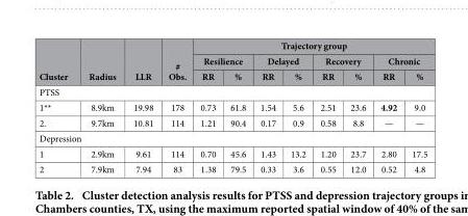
<table><thead><tr><td rowspan="3">Cluster</td><td rowspan="3">Radius</td><td rowspan="3">LLR</td><td rowspan="3"># Obs.</td><td colspan="8">Trajectory group</td></tr><tr><td colspan="2">Resilience</td><td colspan="2">Delayed</td><td colspan="2">Recovery</td><td colspan="2">Chronic</td></tr><tr><td>RR</td><td>%</td><td>RR</td><td>%</td><td>RR</td><td>%</td><td>RR</td><td>%</td></tr></thead><tbody><tr><td colspan="12">PTSS</td></tr><tr><td>1**</td><td>8.9km</td><td>19.98</td><td>178</td><td>0.73</td><td>61.8</td><td>1.54</td><td>5.6</td><td>2.51</td><td>23.6</td><td>4.92</td><td>9.0</td></tr><tr><td>2.</td><td>9.7km</td><td>10.81</td><td>114</td><td>1.21</td><td>90.4</td><td>0.17</td><td>0.9</td><td>0.58</td><td>8.8</td><td>—</td><td>—</td></tr><tr><td colspan="12">Depression</td></tr><tr><td>1</td><td>2.9km</td><td>9.61</td><td>114</td><td>0.70</td><td>45.6</td><td>1.43</td><td>13.2</td><td>1.20</td><td>23.7</td><td>2.80</td><td>17.5</td></tr><tr><td>2</td><td>7.9km</td><td>7.94</td><td>83</td><td>1.38</td><td>79.5</td><td>0.33</td><td>3.6</td><td>0.55</td><td>12.0</td><td>0.52</td><td>4.8</td></tr></tbody></table>